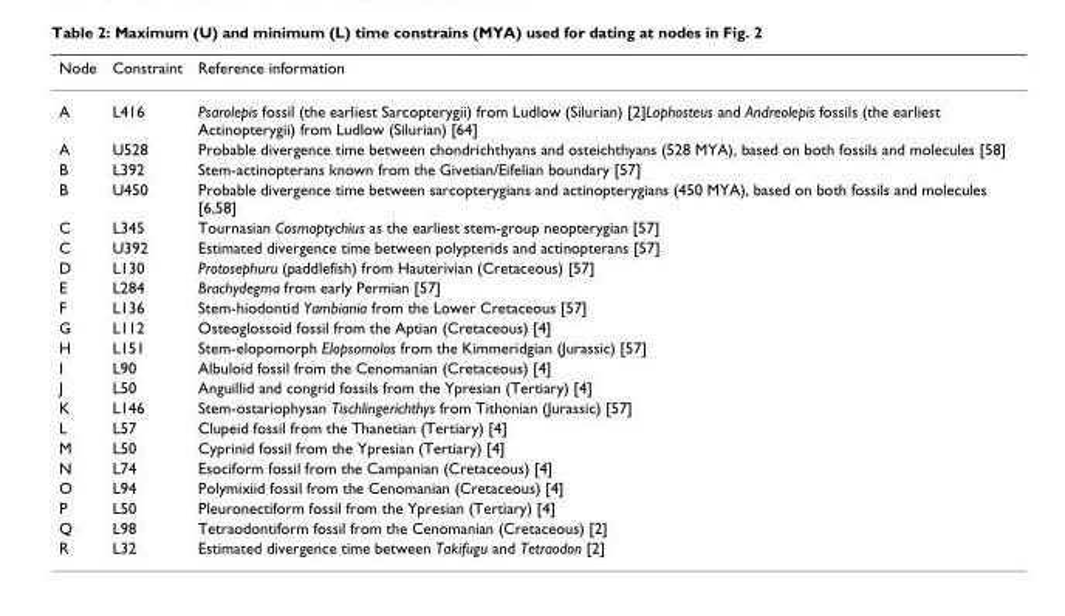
<table><thead><tr><td>Node</td><td>Constraint</td><td>Reference information</td></tr></thead><tbody><tr><td>A</td><td>L416</td><td>Psarolepis fossil (the earliest Sarcopterygii) from Ludlow (Silurian) [2]Lophosteus and Andreolepis fossils (the earliest Actinopterygii) from Ludlow (Silurian) [64]</td></tr><tr><td>A</td><td>U528</td><td>Probable divergence time between chondrichthyans and osteichthyans (528 MYA), based on both fossils and molecules [58]</td></tr><tr><td>B</td><td>L392</td><td>Stem-actinopterans known from the Givetian/Eifelian boundary [57]</td></tr><tr><td>B</td><td>U450</td><td>Probable divergence time between sarcopterygians and actinopterygians (450 MYA), based on both fossils and molecules [6,58]</td></tr><tr><td>C</td><td>L345</td><td>Tournasian Cosmoptychius as the earliest stem-group neopterygian [57]</td></tr><tr><td>C</td><td>U392</td><td>Estimated divergence time between polypterids and actinopterans [57]</td></tr><tr><td>D</td><td>L130</td><td>Protosephuru (paddlefish) from Hauterivian (Cretaceous) [57]</td></tr><tr><td>E</td><td>L284</td><td>Brachydegma from early Permian [57]</td></tr><tr><td>F</td><td>L136</td><td>Stem-hiodontid Yambiania from the Lower Cretaceous [57]</td></tr><tr><td>G</td><td>L112</td><td>Osteoglossoid fossil from the Aptian (Cretaceous) [4]</td></tr><tr><td>H</td><td>L151</td><td>Stem-elopomorph Elopsomolos from the Kimmeridgian (Jurassic) [57]</td></tr><tr><td>I</td><td>L90</td><td>Albuloid fossil from the Cenomanian (Cretaceous) [4]</td></tr><tr><td>J</td><td>L50</td><td>Anguillid and congrid fossils from the Ypresian (Tertiary) [4]</td></tr><tr><td>K</td><td>L146</td><td>Stem-ostariophysan Tischlingerichthys from Tithonian (Jurassic) [57]</td></tr><tr><td>L</td><td>L57</td><td>Clupeid fossil from the Thanetian (Tertiary) [4]</td></tr><tr><td>M</td><td>L50</td><td>Cyprinid fossil from the Ypresian (Tertiary) [4]</td></tr><tr><td>N</td><td>L74</td><td>Esociform fossil from the Campanian (Cretaceous) [4]</td></tr><tr><td>O</td><td>L94</td><td>Polymixiid fossil from the Cenomanian (Cretaceous) [4]</td></tr><tr><td>P</td><td>L50</td><td>Pleuronectiform fossil from the Ypresian (Tertiary) [4]</td></tr><tr><td>Q</td><td>L98</td><td>Tetraodontiform fossil from the Cenomanian (Cretaceous) [2]</td></tr><tr><td>R</td><td>L32</td><td>Estimated divergence time between Takifugu and Tetraodon [2]</td></tr></tbody></table>